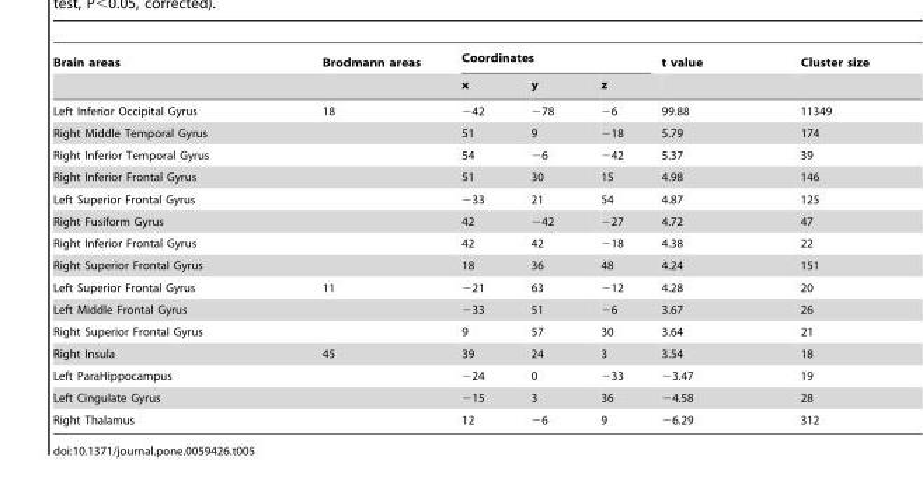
<table><thead><tr><td rowspan="2">Brain areas</td><td rowspan="2">Brodmann areas</td><td colspan="3">Coordinates</td><td rowspan="2">t value</td><td rowspan="2">Cluster size</td></tr><tr><td>x</td><td>y</td><td>z</td></tr></thead><tbody><tr><td>Left Inferior Occipital Gyrus</td><td>18</td><td>−42</td><td>−78</td><td>−6</td><td>99.88</td><td>11349</td></tr><tr><td>Right Middle Temporal Gyrus</td><td></td><td>51</td><td>9</td><td>−18</td><td>5.79</td><td>174</td></tr><tr><td>Right Inferior Temporal Gyrus</td><td></td><td>54</td><td>−6</td><td>−42</td><td>5.37</td><td>39</td></tr><tr><td>Right Inferior Frontal Gyrus</td><td></td><td>51</td><td>30</td><td>15</td><td>4.98</td><td>146</td></tr><tr><td>Left Superior Frontal Gyrus</td><td></td><td>−33</td><td>21</td><td>54</td><td>4.87</td><td>125</td></tr><tr><td>Right Fusiform Gyrus</td><td></td><td>42</td><td>−42</td><td>−27</td><td>4.72</td><td>47</td></tr><tr><td>Right Inferior Frontal Gyrus</td><td></td><td>42</td><td>42</td><td>−18</td><td>4.38</td><td>22</td></tr><tr><td>Right Superior Frontal Gyrus</td><td></td><td>18</td><td>36</td><td>48</td><td>4.24</td><td>151</td></tr><tr><td>Left Superior Frontal Gyrus</td><td>11</td><td>−21</td><td>63</td><td>−12</td><td>4.28</td><td>20</td></tr><tr><td>Left Middle Frontal Gyrus</td><td></td><td>−33</td><td>51</td><td>−6</td><td>3.67</td><td>26</td></tr><tr><td>Right Superior Frontal Gyrus</td><td></td><td>9</td><td>57</td><td>30</td><td>3.64</td><td>21</td></tr><tr><td>Right Insula</td><td>45</td><td>39</td><td>24</td><td>3</td><td>3.54</td><td>18</td></tr><tr><td>Left ParaHippocampus</td><td></td><td>−24</td><td>0</td><td>−33</td><td>−3.47</td><td>19</td></tr><tr><td>Left Cingulate Gyrus</td><td></td><td>−15</td><td>3</td><td>36</td><td>−4.58</td><td>28</td></tr><tr><td>Right Thalamus</td><td></td><td>12</td><td>−6</td><td>9</td><td>−6.29</td><td>312</td></tr></tbody></table>